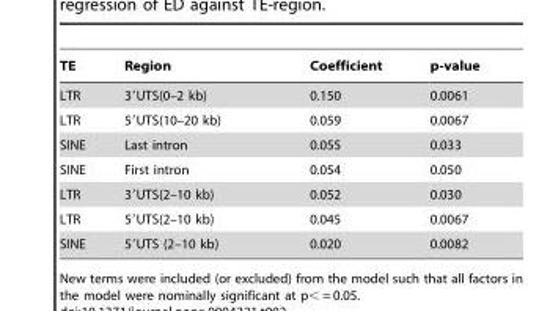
<table><thead><tr><td>TE</td><td>Region</td><td>Coefficient</td><td>p-value</td></tr></thead><tbody><tr><td>LTR</td><td>3′UTS(0–2 kb)</td><td>0.150</td><td>0.0061</td></tr><tr><td>LTR</td><td>5′UTS(10–20 kb)</td><td>0.059</td><td>0.0067</td></tr><tr><td>SINE</td><td>Last intron</td><td>0.055</td><td>0.033</td></tr><tr><td>SINE</td><td>First intron</td><td>0.054</td><td>0.050</td></tr><tr><td>LTR</td><td>3′UTS(2–10 kb)</td><td>0.052</td><td>0.030</td></tr><tr><td>LTR</td><td>5′UTS(2–10 kb)</td><td>0.045</td><td>0.0067</td></tr><tr><td>SINE</td><td>5′UTS (2–10 kb)</td><td>0.020</td><td>0.0082</td></tr></tbody></table>